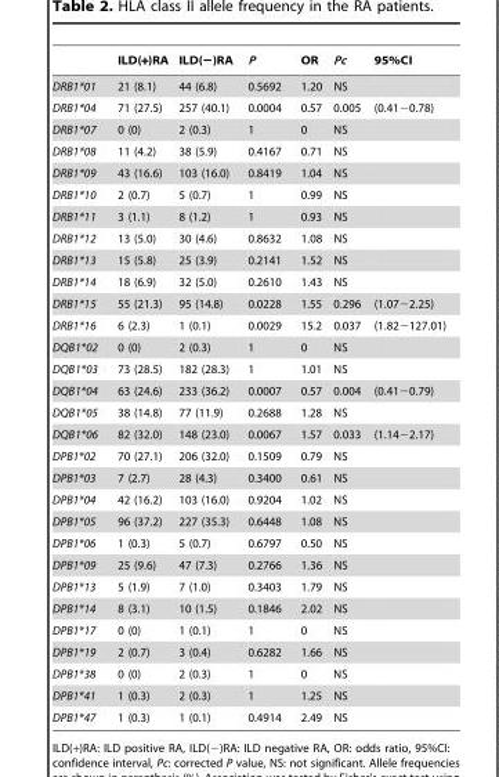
<table><thead><tr><td></td><td>ILD(+)RA</td><td>ILD(−)RA</td><td>P</td><td>OR</td><td>Pc</td><td>95%CI</td></tr></thead><tbody><tr><td>DRB1*01</td><td>21 (8.1)</td><td>44 (6.8)</td><td>0.5692</td><td>1.20</td><td>NS</td><td></td></tr><tr><td>DRB1*04</td><td>71 (27.5)</td><td>257 (40.1)</td><td>0.0004</td><td>0.57</td><td>0.005</td><td>(0.41−0.78)</td></tr><tr><td>DRB1*07</td><td>0 (0)</td><td>2 (0.3)</td><td>1</td><td>0</td><td>NS</td><td></td></tr><tr><td>DRB1*08</td><td>11 (4.2)</td><td>38 (5.9)</td><td>0.4167</td><td>0.71</td><td>NS</td><td></td></tr><tr><td>DRB1*09</td><td>43 (16.6)</td><td>103 (16.0)</td><td>0.8419</td><td>1.04</td><td>NS</td><td></td></tr><tr><td>DRB1*10</td><td>2 (0.7)</td><td>5 (0.7)</td><td>1</td><td>0.99</td><td>NS</td><td></td></tr><tr><td>DRB1*11</td><td>3 (1.1)</td><td>8 (1.2)</td><td>1</td><td>0.93</td><td>NS</td><td></td></tr><tr><td>DRB1*12</td><td>13 (5.0)</td><td>30 (4.6)</td><td>0.8632</td><td>1.08</td><td>NS</td><td></td></tr><tr><td>DRB1*13</td><td>15 (5.8)</td><td>25 (3.9)</td><td>0.2141</td><td>1.52</td><td>NS</td><td></td></tr><tr><td>DRB1*14</td><td>18 (6.9)</td><td>32 (5.0)</td><td>0.2610</td><td>1.43</td><td>NS</td><td></td></tr><tr><td>DRB1*15</td><td>55 (21.3)</td><td>95 (14.8)</td><td>0.0228</td><td>1.55</td><td>0.296</td><td>(1.07−2.25)</td></tr><tr><td>DRB1*16</td><td>6 (2.3)</td><td>1 (0.1)</td><td>0.0029</td><td>15.2</td><td>0.037</td><td>(1.82−127.01)</td></tr><tr><td>DQB1*02</td><td>0 (0)</td><td>2 (0.3)</td><td>1</td><td>0</td><td>NS</td><td></td></tr><tr><td>DQB1*03</td><td>73 (28.5)</td><td>182 (28.3)</td><td>1</td><td>1.01</td><td>NS</td><td></td></tr><tr><td>DQB1*04</td><td>63 (24.6)</td><td>233 (36.2)</td><td>0.0007</td><td>0.57</td><td>0.004</td><td>(0.41−0.79)</td></tr><tr><td>DQB1*05</td><td>38 (14.8)</td><td>77 (11.9)</td><td>0.2688</td><td>1.28</td><td>NS</td><td></td></tr><tr><td>DQB1*06</td><td>82 (32.0)</td><td>148 (23.0)</td><td>0.0067</td><td>1.57</td><td>0.033</td><td>(1.14−2.17)</td></tr><tr><td>DPB1*02</td><td>70 (27.1)</td><td>206 (32.0)</td><td>0.1509</td><td>0.79</td><td>NS</td><td></td></tr><tr><td>DPB1*03</td><td>7 (2.7)</td><td>28 (4.3)</td><td>0.3400</td><td>0.61</td><td>NS</td><td></td></tr><tr><td>DPB1*04</td><td>42 (16.2)</td><td>103 (16.0)</td><td>0.9204</td><td>1.02</td><td>NS</td><td></td></tr><tr><td>DPB1*05</td><td>96 (37.2)</td><td>227 (35.3)</td><td>0.6448</td><td>1.08</td><td>NS</td><td></td></tr><tr><td>DPB1*06</td><td>1 (0.3)</td><td>5 (0.7)</td><td>0.6797</td><td>0.50</td><td>NS</td><td></td></tr><tr><td>DPB1*09</td><td>25 (9.6)</td><td>47 (7.3)</td><td>0.2766</td><td>1.36</td><td>NS</td><td></td></tr><tr><td>DPB1*13</td><td>5 (1.9)</td><td>7 (1.0)</td><td>0.3403</td><td>1.79</td><td>NS</td><td></td></tr><tr><td>DPB1*14</td><td>8 (3.1)</td><td>10 (1.5)</td><td>0.1846</td><td>2.02</td><td>NS</td><td></td></tr><tr><td>DPB1*17</td><td>0 (0)</td><td>1 (0.1)</td><td>1</td><td>0</td><td>NS</td><td></td></tr><tr><td>DPB1*19</td><td>2 (0.7)</td><td>3 (0.4)</td><td>0.6282</td><td>1.66</td><td>NS</td><td></td></tr><tr><td>DPB1*38</td><td>0 (0)</td><td>2 (0.3)</td><td>1</td><td>0</td><td>NS</td><td></td></tr><tr><td>DPB1*41</td><td>1 (0.3)</td><td>2 (0.3)</td><td>1</td><td>1.25</td><td>NS</td><td></td></tr><tr><td>DPB1*47</td><td>1 (0.3)</td><td>1 (0.1)</td><td>0.4914</td><td>2.49</td><td>NS</td><td></td></tr></tbody></table>